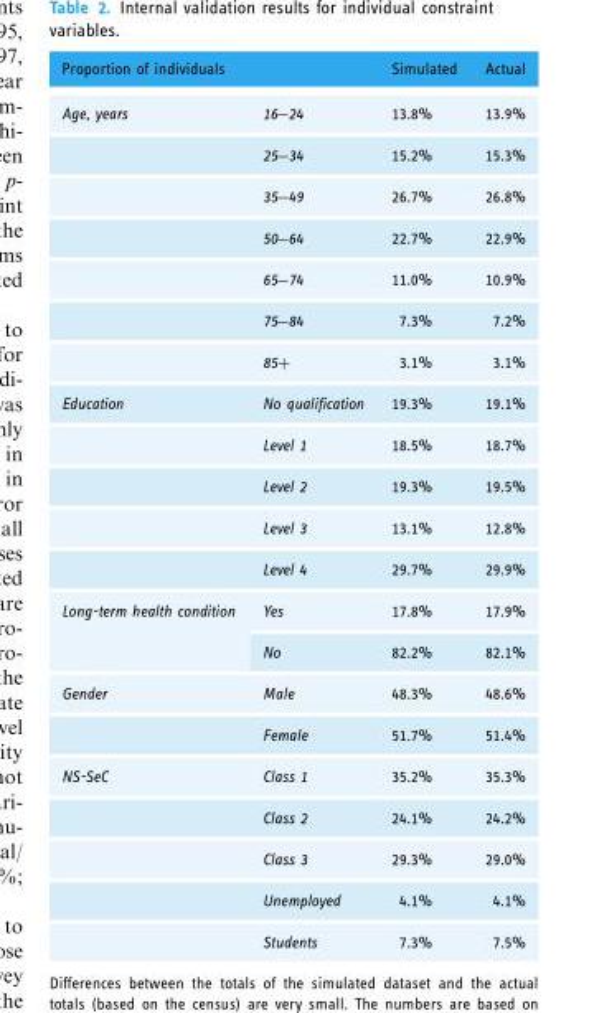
<table><thead><tr><td colspan="2">Proportion of individuals</td><td rowspan="2">Simulated 13.8%</td><td rowspan="2">Actual 13.9%</td></tr><tr><td>Age, years</td><td>16–24</td></tr></thead><tbody><tr><td></td><td>25–34</td><td>15.2%</td><td>15.3%</td></tr><tr><td></td><td>35–49</td><td>26.7%</td><td>26.8%</td></tr><tr><td></td><td>50–64</td><td>22.7%</td><td>22.9%</td></tr><tr><td></td><td>65–74</td><td>11.0%</td><td>10.9%</td></tr><tr><td></td><td>75–84</td><td>7.3%</td><td>7.2%</td></tr><tr><td></td><td>85+</td><td>3.1%</td><td>3.1%</td></tr><tr><td rowspan="5">Education</td><td>No qualification</td><td>19.3%</td><td>19.1%</td></tr><tr><td>Level 1</td><td>18.5%</td><td>18.7%</td></tr><tr><td>Level 2</td><td>19.3%</td><td>19.5%</td></tr><tr><td>Level 3</td><td>13.1%</td><td>12.8%</td></tr><tr><td>Level 4</td><td>29.7%</td><td>29.9%</td></tr><tr><td rowspan="2">Long-term health condition</td><td>Yes</td><td>17.8%</td><td>17.9%</td></tr><tr><td>No</td><td>82.2%</td><td>82.1%</td></tr><tr><td rowspan="2">Gender</td><td>Male</td><td>48.3%</td><td>48.6%</td></tr><tr><td>Female</td><td>51.7%</td><td>51.4%</td></tr><tr><td rowspan="5">NS-SeC</td><td>Class 1</td><td>35.2%</td><td>35.3%</td></tr><tr><td>Class 2</td><td>24.1%</td><td>24.2%</td></tr><tr><td>Class 3</td><td>29.3%</td><td>29.0%</td></tr><tr><td>Unemployed</td><td>4.1%</td><td>4.1%</td></tr><tr><td>Students</td><td>7.3%</td><td>7.5%</td></tr></tbody></table>